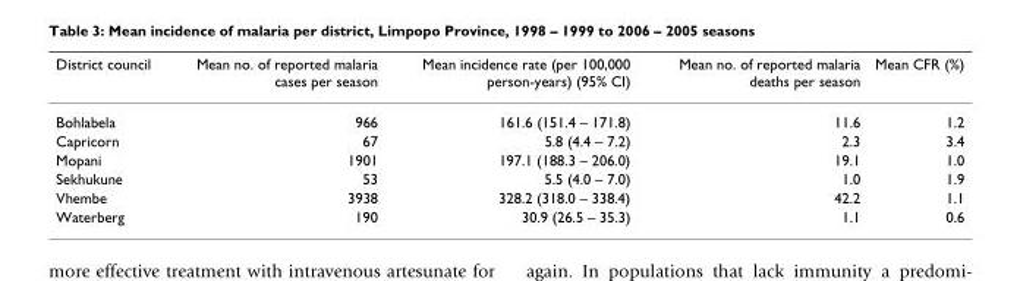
<table><thead><tr><td>District council</td><td>Mean no. of reported malaria cases per season</td><td>Mean incidence rate (per 100,000 person-years) (95% CI)</td><td>Mean no. of reported malaria deaths per season</td><td>Mean CFR (%)</td></tr></thead><tbody><tr><td>Bohlabela</td><td>966</td><td>161.6 (151.4 – 171.8)</td><td>11.6</td><td>1.2</td></tr><tr><td>Capricorn</td><td>67</td><td>5.8 (4.4 – 7.2)</td><td>2.3</td><td>3.4</td></tr><tr><td>Mopani</td><td>1901</td><td>197.1 (188.3 – 206.0)</td><td>19.1</td><td>1.0</td></tr><tr><td>Sekhukune</td><td>53</td><td>5.5 (4.0 – 7.0)</td><td>1.0</td><td>1.9</td></tr><tr><td>Vhembe</td><td>3938</td><td>328.2 (318.0 – 338.4)</td><td>42.2</td><td>1.1</td></tr><tr><td>Waterberg</td><td>190</td><td>30.9 (26.5 – 35.3)</td><td>1.1</td><td>0.6</td></tr></tbody></table>